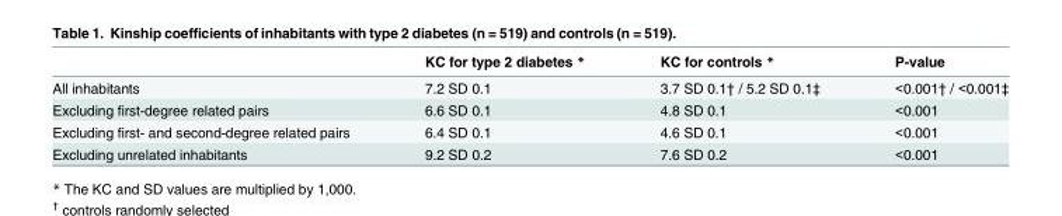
<table><thead><tr><td></td><td>KC for type 2 diabetes *</td><td>KC for controls *</td><td>P-value</td></tr></thead><tbody><tr><td>All inhabitants</td><td>7.2 SD 0.1</td><td>3.7 SD 0.1† / 5.2 SD 0.1‡</td><td>&lt;0.001† / &lt;0.001‡</td></tr><tr><td>Excluding first-degree related pairs</td><td>6.6 SD 0.1</td><td>4.8 SD 0.1</td><td>&lt;0.001</td></tr><tr><td>Excluding first- and second-degree related pairs</td><td>6.4 SD 0.1</td><td>4.6 SD 0.1</td><td>&lt;0.001</td></tr><tr><td>Excluding unrelated inhabitants</td><td>9.2 SD 0.2</td><td>7.6 SD 0.2</td><td>&lt;0.001</td></tr></tbody></table>